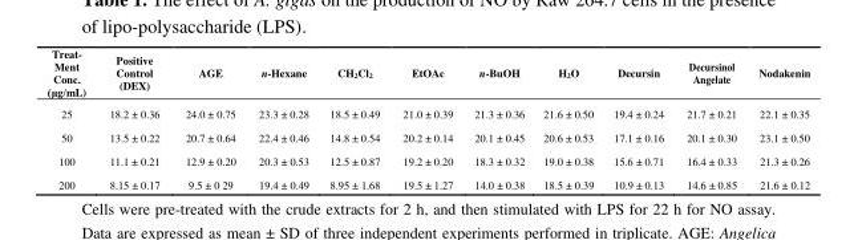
<table><thead><tr><td>Treat- Ment Conc. (μg/mL)</td><td>Positive Control (DEX)</td><td>AGE</td><td>n-Hexane</td><td>CH<sub>2</sub>Cl<sub>2</sub></td><td>EtOAc</td><td>n-BuOH</td><td>H<sub>2</sub>O</td><td>Decursin</td><td>Decursinol Angelate</td><td>Nodakenin</td></tr></thead><tbody><tr><td>25</td><td>18.2 ± 0.36</td><td>24.0 ± 0.75</td><td>23.3 ± 0.28</td><td>18.5 ± 0.49</td><td>21.0 ± 0.39</td><td>21.3 ± 0.36</td><td>21.6 ± 0.50</td><td>19.4 ± 0.24</td><td>21.7 ± 0.21</td><td>22.1 ± 0.35</td></tr><tr><td>50</td><td>13.5 ± 0.22</td><td>20.7 ± 0.64</td><td>22.4 ± 0.46</td><td>14.8 ± 0.54</td><td>20.2 ± 0.14</td><td>20.1 ± 0.45</td><td>20.6 ± 0.53</td><td>17.1 ± 0.16</td><td>20.1 ± 0.30</td><td>23.1 ± 0.50</td></tr><tr><td>100</td><td>11.1 ± 0.21</td><td>12.9 ± 0.20</td><td>20.3 ± 0.53</td><td>12.5 ± 0.87</td><td>19.2 ± 0.20</td><td>18.3 ± 0.32</td><td>19.0 ± 0.38</td><td>15.6 ± 0.71</td><td>16.4 ± 0.33</td><td>21.3 ± 0.26</td></tr><tr><td>200</td><td>8.15 ± 0.17</td><td>9.5 ± 0 29</td><td>19.4 ± 0.49</td><td>8.95 ± 1.68</td><td>19.5 ± 1.27</td><td>14.0 ± 0.38</td><td>18.5 ± 0.39</td><td>10.9 ± 0.13</td><td>14.6 ± 0.85</td><td>21.6 ± 0.12</td></tr></tbody></table>